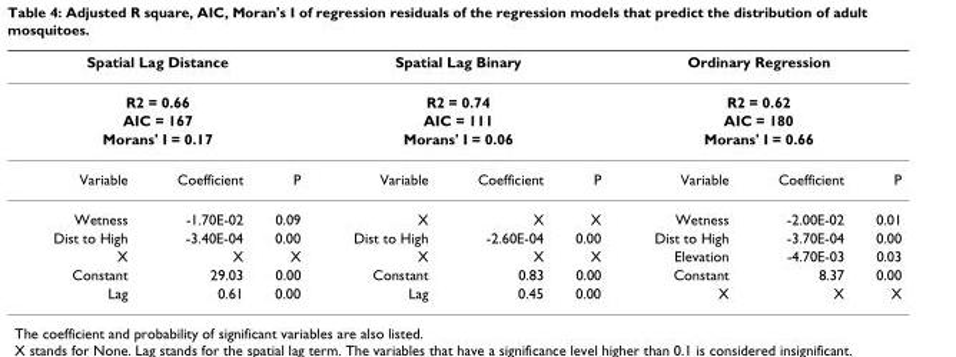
<table><thead><tr><td colspan="3">Spatial Lag Distance</td><td colspan="3">Spatial Lag Binary</td><td colspan="3">Ordinary Regression</td></tr></thead><tbody><tr><td colspan="3">R2 = 0.66</td><td colspan="3">R2 = 0.74</td><td colspan="3">R2 = 0.62</td></tr><tr><td colspan="3">AIC = 167</td><td colspan="3">AIC = 111</td><td colspan="3">AIC = 180</td></tr><tr><td colspan="3">Morans&#x27; I = 0.17</td><td colspan="3">Morans&#x27; I = 0.06</td><td colspan="3">Morans&#x27; I = 0.66</td></tr><tr><td>Variable</td><td>Coefficient</td><td>P</td><td>Variable</td><td>Coefficient</td><td>P</td><td>Variable</td><td>Coefficient</td><td>P</td></tr><tr><td>Wetness</td><td>-1.70E-02</td><td>0.09</td><td>X</td><td>X</td><td>X</td><td>Wetness</td><td>-2.00E-02</td><td>0.01</td></tr><tr><td>Dist to High</td><td>-3.40E-04</td><td>0.00</td><td>Dist to High</td><td>-2.60E-04</td><td>0.00</td><td>Dist to High</td><td>-3.70E-04</td><td>0.00</td></tr><tr><td>X</td><td>X</td><td>X</td><td>X</td><td>X</td><td>X</td><td>Elevation</td><td>-4.70E-03</td><td>0.03</td></tr><tr><td>Constant</td><td>29.03</td><td>0.00</td><td>Constant</td><td>0.83</td><td>0.00</td><td>Constant</td><td>8.37</td><td>0.00</td></tr><tr><td>Lag</td><td>0.61</td><td>0.00</td><td>Lag</td><td>0.45</td><td>0.00</td><td>X</td><td>X</td><td>X</td></tr></tbody></table>